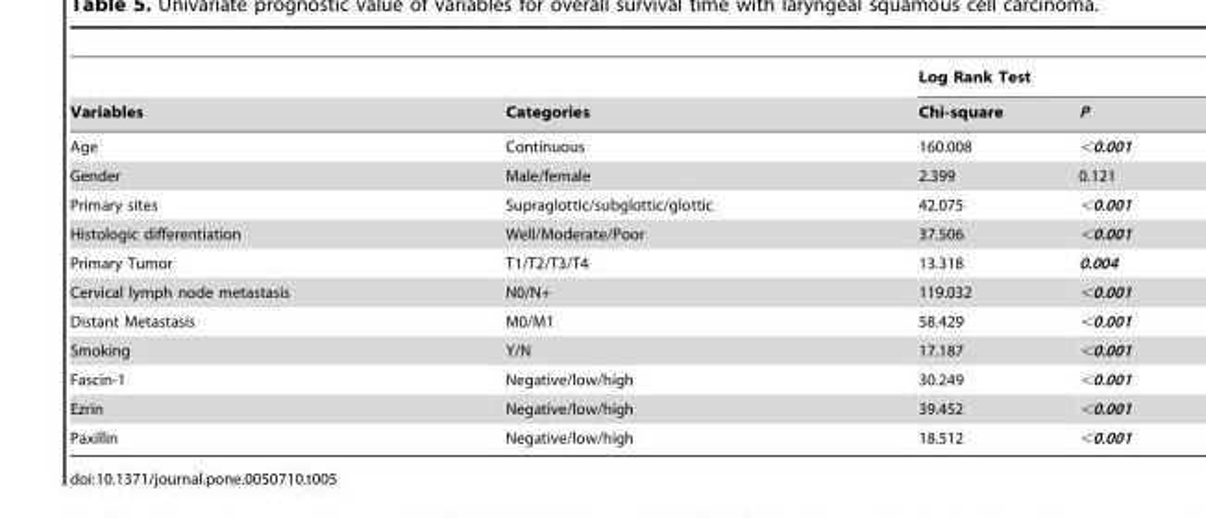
<table><thead><tr><td rowspan="2">Variables</td><td rowspan="2">Categories</td><td colspan="2">Log Rank Test</td></tr><tr><td>Chi-square</td><td>P</td></tr></thead><tbody><tr><td>Age</td><td>Continuous</td><td>160.008</td><td>&lt;0.001</td></tr><tr><td>Gender</td><td>Male/female</td><td>2.399</td><td>0.121</td></tr><tr><td>Primary sites</td><td>Supraglottic/subglottic/glottic</td><td>42.075</td><td>&lt;0.001</td></tr><tr><td>Histologic differentiation</td><td>Well/Moderate/Poor</td><td>37.506</td><td>&lt;0.001</td></tr><tr><td>Primary Tumor</td><td>T1/T2/T3/T4</td><td>13.318</td><td>0.004</td></tr><tr><td>Cervical lymph node metastasis</td><td>N0/N+</td><td>119.032</td><td>&lt;0.001</td></tr><tr><td>Distant Metastasis</td><td>M0/M1</td><td>58.429</td><td>&lt;0.001</td></tr><tr><td>Smoking</td><td>Y/N</td><td>17.187</td><td>&lt;0.001</td></tr><tr><td>Fascin-1</td><td>Negative/low/high</td><td>30.249</td><td>&lt;0.001</td></tr><tr><td>Ezrin</td><td>Negative/low/high</td><td>39.452</td><td>&lt;0.001</td></tr><tr><td>Paxillin</td><td>Negative/low/high</td><td>18.512</td><td>&lt;0.001</td></tr></tbody></table>